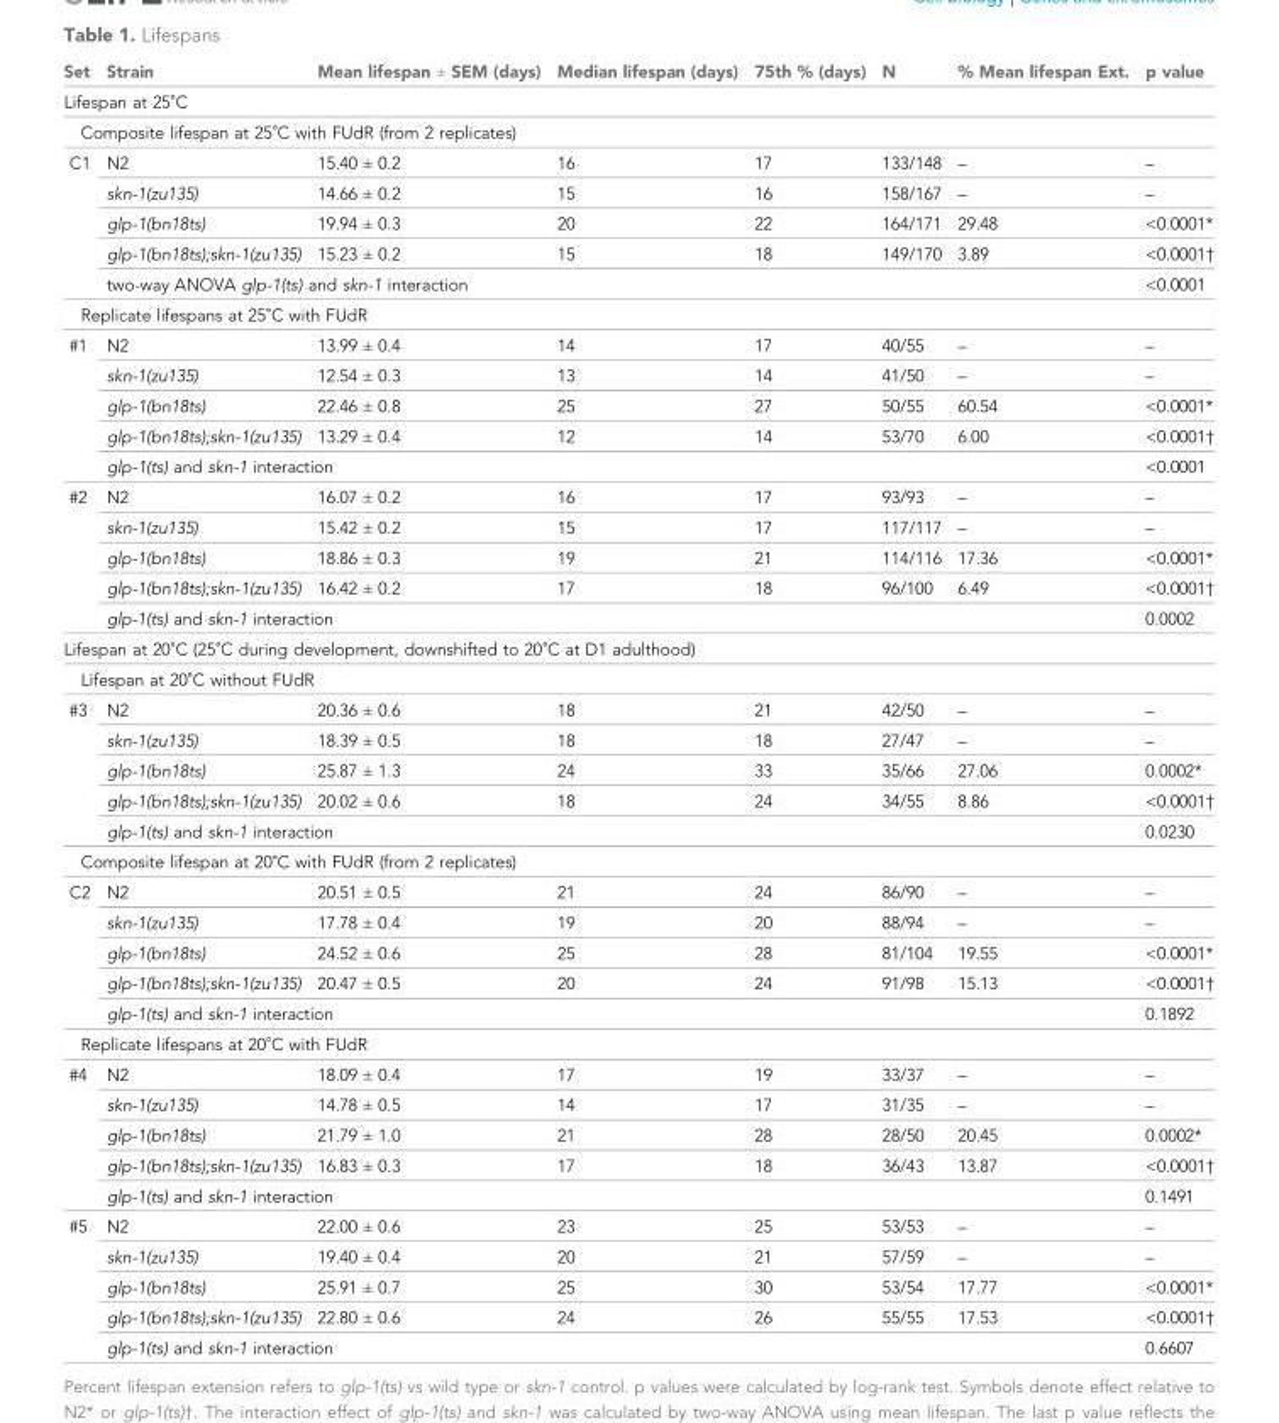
<table><thead><tr><td>Set</td><td>Strain</td><td>Mean lifespan ± SEM (days)</td><td>Median lifespan (days)</td><td>75th % (days)</td><td>N</td><td>% Mean lifespan Ext.</td><td>p value</td></tr></thead><tbody><tr><td colspan="8">Lifespan at 25˚C</td></tr><tr><td colspan="8">Composite lifespan at 25˚C with FUdR (from 2 replicates)</td></tr><tr><td rowspan="5">C1</td><td>N2</td><td>15.40 ± 0.2</td><td>16</td><td>17</td><td>133/148</td><td>–</td><td>–</td></tr><tr><td>skn-1(zu135)</td><td>14.66 ± 0.2</td><td>15</td><td>16</td><td>158/167</td><td>–</td><td>–</td></tr><tr><td>glp-1(bn18ts)</td><td>19.94 ± 0.3</td><td>20</td><td>22</td><td>164/171</td><td>29.48</td><td>&lt;0.0001*</td></tr><tr><td>glp-1(bn18ts);skn-1(zu135)</td><td>15.23 ± 0.2</td><td>15</td><td>18</td><td>149/170</td><td>3.89</td><td>&lt;0.0001†</td></tr><tr><td colspan="6">two-way ANOVA glp-1(ts) and skn-1 interaction</td><td>&lt;0.0001</td></tr><tr><td colspan="8">Replicate lifespans at 25˚C with FUdR</td></tr><tr><td rowspan="5">#1</td><td>N2</td><td>13.99 ± 0.4</td><td>14</td><td>17</td><td>40/55</td><td>–</td><td>–</td></tr><tr><td>skn-1(zu135)</td><td>12.54 ± 0.3</td><td>13</td><td>14</td><td>41/50</td><td>–</td><td>–</td></tr><tr><td>glp-1(bn18ts)</td><td>22.46 ± 0.8</td><td>25</td><td>27</td><td>50/55</td><td>60.54</td><td>&lt;0.0001*</td></tr><tr><td>glp-1(bn18ts);skn-1(zu135)</td><td>13.29 ± 0.4</td><td>12</td><td>14</td><td>53/70</td><td>6.00</td><td>&lt;0.0001†</td></tr><tr><td colspan="6">glp-1(ts) and skn-1 interaction</td><td>&lt;0.0001</td></tr><tr><td rowspan="5">#2</td><td>N2</td><td>16.07 ± 0.2</td><td>16</td><td>17</td><td>93/93</td><td>–</td><td>–</td></tr><tr><td>skn-1(zu135)</td><td>15.42 ± 0.2</td><td>15</td><td>17</td><td>117/117</td><td>–</td><td>–</td></tr><tr><td>glp-1(bn18ts)</td><td>18.86 ± 0.3</td><td>19</td><td>21</td><td>114/116</td><td>17.36</td><td>&lt;0.0001*</td></tr><tr><td>glp-1(bn18ts);skn-1(zu135)</td><td>16.42 ± 0.2</td><td>17</td><td>18</td><td>96/100</td><td>6.49</td><td>&lt;0.0001†</td></tr><tr><td colspan="6">glp-1(ts) and skn-1 interaction</td><td>0.0002</td></tr><tr><td colspan="8">Lifespan at 20˚C (25˚C during development, downshifted to 20˚C at D1 adulthood)</td></tr><tr><td colspan="8">Lifespan at 20˚C without FUdR</td></tr><tr><td rowspan="5">#3</td><td>N2</td><td>20.36 ± 0.6</td><td>18</td><td>21</td><td>42/50</td><td>–</td><td>–</td></tr><tr><td>skn-1(zu135)</td><td>18.39 ± 0.5</td><td>18</td><td>18</td><td>27/47</td><td>–</td><td>–</td></tr><tr><td>glp-1(bn18ts)</td><td>25.87 ± 1.3</td><td>24</td><td>33</td><td>35/66</td><td>27.06</td><td>0.0002*</td></tr><tr><td>glp-1(bn18ts);skn-1(zu135)</td><td>20.02 ± 0.6</td><td>18</td><td>24</td><td>34/55</td><td>8.86</td><td>&lt;0.0001†</td></tr><tr><td colspan="6">glp-1(ts) and skn-1 interaction</td><td>0.0230</td></tr><tr><td colspan="8">Composite lifespan at 20˚C with FUdR (from 2 replicates)</td></tr><tr><td rowspan="5">C2</td><td>N2</td><td>20.51 ± 0.5</td><td>21</td><td>24</td><td>86/90</td><td>–</td><td>–</td></tr><tr><td>skn-1(zu135)</td><td>17.78 ± 0.4</td><td>19</td><td>20</td><td>88/94</td><td>–</td><td>–</td></tr><tr><td>glp-1(bn18ts)</td><td>24.52 ± 0.6</td><td>25</td><td>28</td><td>81/104</td><td>19.55</td><td>&lt;0.0001*</td></tr><tr><td>glp-1(bn18ts);skn-1(zu135)</td><td>20.47 ± 0.5</td><td>20</td><td>24</td><td>91/98</td><td>15.13</td><td>&lt;0.0001†</td></tr><tr><td colspan="6">glp-1(ts) and skn-1 interaction</td><td>0.1892</td></tr><tr><td colspan="8">Replicate lifespans at 20˚C with FUdR</td></tr><tr><td rowspan="5">#4</td><td>N2</td><td>18.09 ± 0.4</td><td>17</td><td>19</td><td>33/37</td><td>–</td><td>–</td></tr><tr><td>skn-1(zu135)</td><td>14.78 ± 0.5</td><td>14</td><td>17</td><td>31/35</td><td>–</td><td>–</td></tr><tr><td>glp-1(bn18ts)</td><td>21.79 ± 1.0</td><td>21</td><td>28</td><td>28/50</td><td>20.45</td><td>0.0002*</td></tr><tr><td>glp-1(bn18ts);skn-1(zu135)</td><td>16.83 ± 0.3</td><td>17</td><td>18</td><td>36/43</td><td>13.87</td><td>&lt;0.0001†</td></tr><tr><td colspan="6">glp-1(ts) and skn-1 interaction</td><td>0.1491</td></tr><tr><td rowspan="5">#5</td><td>N2</td><td>22.00 ± 0.6</td><td>23</td><td>25</td><td>53/53</td><td>–</td><td>–</td></tr><tr><td>skn-1(zu135)</td><td>19.40 ± 0.4</td><td>20</td><td>21</td><td>57/59</td><td>–</td><td>–</td></tr><tr><td>glp-1(bn18ts)</td><td>25.91 ± 0.7</td><td>25</td><td>30</td><td>53/54</td><td>17.77</td><td>&lt;0.0001*</td></tr><tr><td>glp-1(bn18ts);skn-1(zu135)</td><td>22.80 ± 0.6</td><td>24</td><td>26</td><td>55/55</td><td>17.53</td><td>&lt;0.0001†</td></tr><tr><td colspan="6">glp-1(ts) and skn-1 interaction</td><td>0.6607</td></tr></tbody></table>